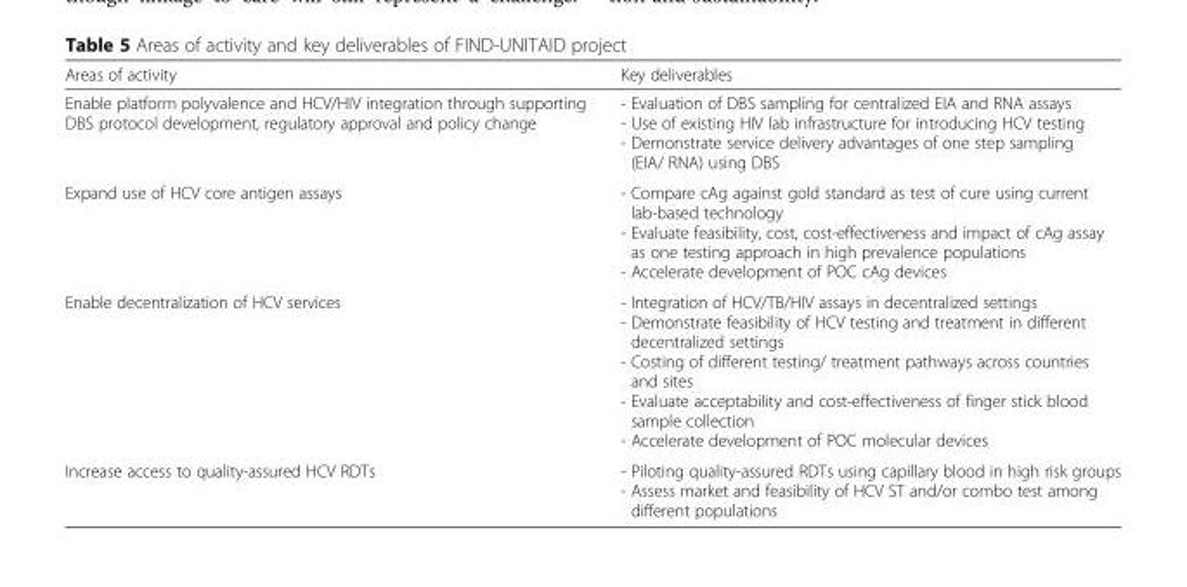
<table><thead><tr><td>Areas of activity</td><td>Key deliverables</td></tr></thead><tbody><tr><td>Enable platform polyvalence and HCV/HIV integration through supporting DBS protocol development, regulatory approval and policy change</td><td>- Evaluation of DBS sampling for centralized EIA and RNA assays - Use of existing HIV lab infrastructure for introducing HCV testing - Demonstrate service delivery advantages of one step sampling (EIA/ RNA) using DBS</td></tr><tr><td>Expand use of HCV core antigen assays</td><td>- Compare cAg against gold standard as test of cure using current lab-based technology - Evaluate feasibility, cost, cost-effectiveness and impact of cAg assay as one testing approach in high prevalence populations - Accelerate development of POC cAg devices</td></tr><tr><td>Enable decentralization of HCV services</td><td>- Integration of HCV/TB/HIV assays in decentralized settings - Demonstrate feasibility of HCV testing and treatment in different decentralized settings - Costing of different testing/ treatment pathways across countries and sites - Evaluate acceptability and cost-effectiveness of finger stick blood sample collection - Accelerate development of POC molecular devices</td></tr><tr><td>Increase access to quality-assured HCV RDTs</td><td>- Piloting quality-assured RDTs using capillary blood in high risk groups - Assess market and feasibility of HCV ST and/or combo test among different populations</td></tr></tbody></table>